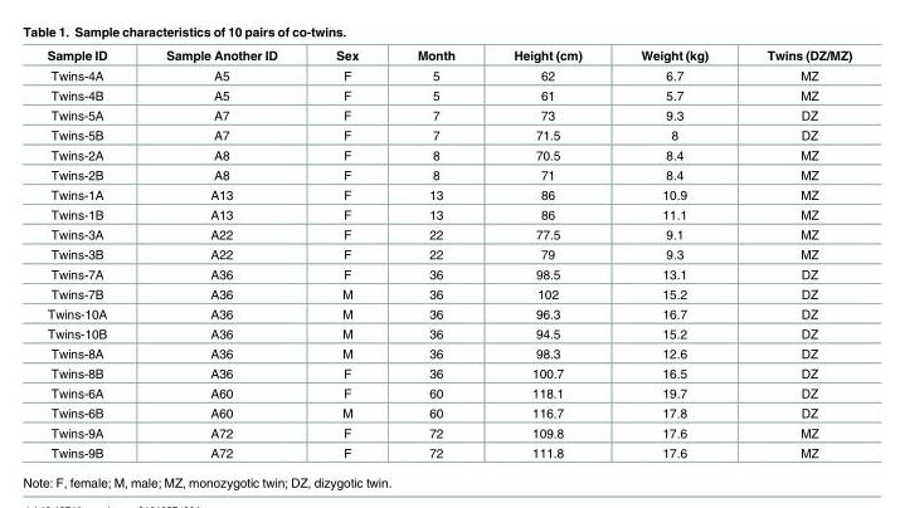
<table><thead><tr><td>Sample ID</td><td>Sample Another ID</td><td>Sex</td><td>Month</td><td>Height (cm)</td><td>Weight (kg)</td><td>Twins (DZ/MZ)</td></tr></thead><tbody><tr><td>Twins-4A</td><td>A5</td><td>F</td><td>5</td><td>62</td><td>6.7</td><td>MZ</td></tr><tr><td>Twins-4B</td><td>A5</td><td>F</td><td>5</td><td>61</td><td>5.7</td><td>MZ</td></tr><tr><td>Twins-5A</td><td>A7</td><td>F</td><td>7</td><td>73</td><td>9.3</td><td>DZ</td></tr><tr><td>Twins-5B</td><td>A7</td><td>F</td><td>7</td><td>71.5</td><td>8</td><td>DZ</td></tr><tr><td>Twins-2A</td><td>A8</td><td>F</td><td>8</td><td>70.5</td><td>8.4</td><td>MZ</td></tr><tr><td>Twins-2B</td><td>A8</td><td>F</td><td>8</td><td>71</td><td>8.4</td><td>MZ</td></tr><tr><td>Twins-1A</td><td>A13</td><td>F</td><td>13</td><td>86</td><td>10.9</td><td>MZ</td></tr><tr><td>Twins-1B</td><td>A13</td><td>F</td><td>13</td><td>86</td><td>11.1</td><td>MZ</td></tr><tr><td>Twins-3A</td><td>A22</td><td>F</td><td>22</td><td>77.5</td><td>9.1</td><td>MZ</td></tr><tr><td>Twins-3B</td><td>A22</td><td>F</td><td>22</td><td>79</td><td>9.3</td><td>MZ</td></tr><tr><td>Twins-7A</td><td>A36</td><td>F</td><td>36</td><td>98.5</td><td>13.1</td><td>DZ</td></tr><tr><td>Twins-7B</td><td>A36</td><td>M</td><td>36</td><td>102</td><td>15.2</td><td>DZ</td></tr><tr><td>Twins-10A</td><td>A36</td><td>M</td><td>36</td><td>96.3</td><td>16.7</td><td>DZ</td></tr><tr><td>Twins-10B</td><td>A36</td><td>M</td><td>36</td><td>94.5</td><td>15.2</td><td>DZ</td></tr><tr><td>Twins-8A</td><td>A36</td><td>M</td><td>36</td><td>98.3</td><td>12.6</td><td>DZ</td></tr><tr><td>Twins-8B</td><td>A36</td><td>F</td><td>36</td><td>100.7</td><td>16.5</td><td>DZ</td></tr><tr><td>Twins-6A</td><td>A60</td><td>F</td><td>60</td><td>118.1</td><td>19.7</td><td>DZ</td></tr><tr><td>Twins-6B</td><td>A60</td><td>M</td><td>60</td><td>116.7</td><td>17.8</td><td>DZ</td></tr><tr><td>Twins-9A</td><td>A72</td><td>F</td><td>72</td><td>109.8</td><td>17.6</td><td>MZ</td></tr><tr><td>Twins-9B</td><td>A72</td><td>F</td><td>72</td><td>111.8</td><td>17.6</td><td>MZ</td></tr></tbody></table>